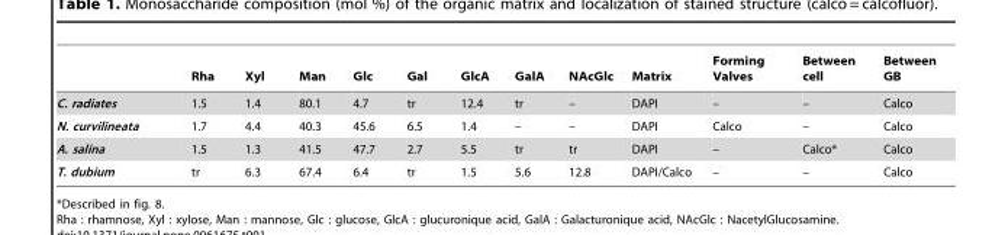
<table><thead><tr><td></td><td>Rha</td><td>Xyl</td><td>Man</td><td>Glc</td><td>Gal</td><td>GlcA</td><td>GalA</td><td>NAcGlc</td><td>Matrix</td><td>Forming Valves</td><td>Between cell</td><td>Between GB</td></tr></thead><tbody><tr><td>C. radiates</td><td>1.5</td><td>1.4</td><td>80.1</td><td>4.7</td><td>tr</td><td>12.4</td><td>tr</td><td>–</td><td>DAPI</td><td>–</td><td>–</td><td>Calco</td></tr><tr><td>N. curvilineata</td><td>1.7</td><td>4.4</td><td>40.3</td><td>45.6</td><td>6.5</td><td>1.4</td><td>–</td><td>–</td><td>DAPI</td><td>Calco</td><td>–</td><td>Calco</td></tr><tr><td>A. salina</td><td>1.5</td><td>1.3</td><td>41.5</td><td>47.7</td><td>2.7</td><td>5.5</td><td>tr</td><td>tr</td><td>DAPI</td><td>–</td><td>Calco*</td><td>Calco</td></tr><tr><td>T. dubium</td><td>tr</td><td>6.3</td><td>67.4</td><td>6.4</td><td>tr</td><td>1.5</td><td>5.6</td><td>12.8</td><td>DAPI/Calco</td><td>–</td><td>–</td><td>Calco</td></tr></tbody></table>